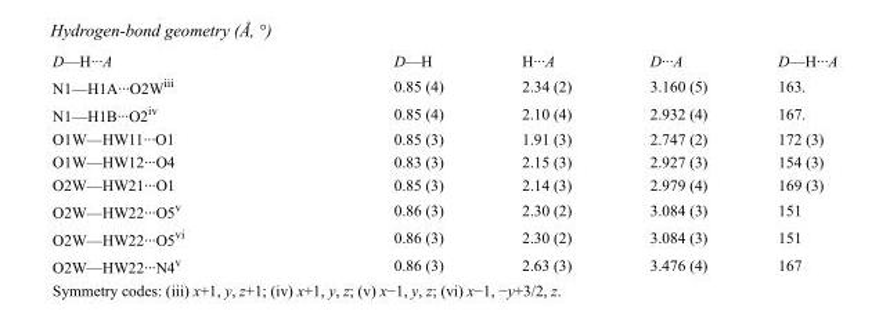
<table><tbody><tr><td>D—H···A</td><td>D—H</td><td>H···A</td><td>D···A</td><td>D—H···A</td></tr><tr><td>N1—H1A···O2W<sup>iii</sup></td><td>0.85 (4)</td><td>2.34 (2)</td><td>3.160 (5)</td><td>163.</td></tr><tr><td>N1—H1B···O2<sup>iv</sup></td><td>0.85 (4)</td><td>2.10 (4)</td><td>2.932 (4)</td><td>167.</td></tr><tr><td>O1W—HW11···O1</td><td>0.85 (3)</td><td>1.91 (3)</td><td>2.747 (2)</td><td>172 (3)</td></tr><tr><td>O1W—HW12···O4</td><td>0.83 (3)</td><td>2.15 (3)</td><td>2.927 (3)</td><td>154 (3)</td></tr><tr><td>O2W—HW21···O1</td><td>0.85 (3)</td><td>2.14 (3)</td><td>2.979 (4)</td><td>169 (3)</td></tr><tr><td>O2W—HW22···O5<sup>v</sup></td><td>0.86 (3)</td><td>2.30 (2)</td><td>3.084 (3)</td><td>151</td></tr><tr><td>O2W—HW22···O5<sup>vi</sup></td><td>0.86 (3)</td><td>2.30 (2)</td><td>3.084 (3)</td><td>151</td></tr><tr><td>O2W—HW22···N4<sup>v</sup></td><td>0.86 (3)</td><td>2.63 (3)</td><td>3.476 (4)</td><td>167</td></tr></tbody></table>